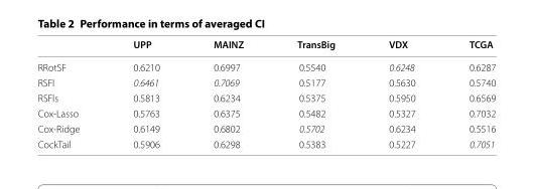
<table><thead><tr><td></td><td>UPP</td><td>MAINZ</td><td>TransBig</td><td>VDX</td><td>TCGA</td></tr></thead><tbody><tr><td>RRotSF</td><td>0.6210</td><td>0.6997</td><td>0.5540</td><td>0.6248</td><td>0.6287</td></tr><tr><td>RSFl</td><td>0.6461</td><td>0.7069</td><td>0.5177</td><td>0.5630</td><td>0.5740</td></tr><tr><td>RSFls</td><td>0.5813</td><td>0.6234</td><td>0.5375</td><td>0.5950</td><td>0.6569</td></tr><tr><td>Cox-Lasso</td><td>0.5763</td><td>0.6375</td><td>0.5482</td><td>0.5327</td><td>0.7032</td></tr><tr><td>Cox-Ridge</td><td>0.6149</td><td>0.6802</td><td>0.5702</td><td>0.6234</td><td>0.5516</td></tr><tr><td>CockTail</td><td>0.5906</td><td>0.6298</td><td>0.5383</td><td>0.5227</td><td>0.7051</td></tr></tbody></table>